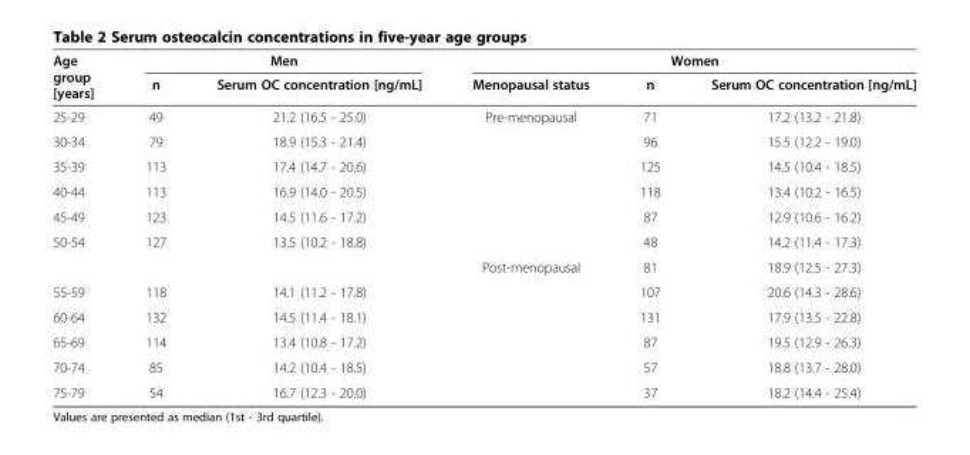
<table><thead><tr><td rowspan="2">Age group [years]</td><td colspan="2">Men</td><td colspan="3">Women</td></tr><tr><td>n</td><td>Serum OC concentration [ng/mL]</td><td>Menopausal status</td><td>n</td><td>Serum OC concentration [ng/mL]</td></tr></thead><tbody><tr><td>25-29</td><td>49</td><td>21.2 (16.5 - 25.0)</td><td>Pre-menopausal</td><td>71</td><td>17.2 (13.2 - 21.8)</td></tr><tr><td>30-34</td><td>79</td><td>18.9 (15.3 - 21.4)</td><td></td><td>96</td><td>15.5 (12.2 - 19.0)</td></tr><tr><td>35-39</td><td>113</td><td>17.4 (14.7 - 20.6)</td><td></td><td>125</td><td>14.5 (10.4 - 18.5)</td></tr><tr><td>40-44</td><td>113</td><td>16.9 (14.0 - 20.5)</td><td></td><td>118</td><td>13.4 (10.2 - 16.5)</td></tr><tr><td>45-49</td><td>123</td><td>14.5 (11.6 - 17.2)</td><td></td><td>87</td><td>12.9 (10.6 - 16.2)</td></tr><tr><td rowspan="2">50-54</td><td>127</td><td>13.5 (10.2 - 18.8)</td><td></td><td>48</td><td>14.2 (11.4 - 17.3)</td></tr><tr><td></td><td></td><td>Post-menopausal</td><td>81</td><td>18.9 (12.5 - 27.3)</td></tr><tr><td>55-59</td><td>118</td><td>14.1 (11.2 - 17.8)</td><td></td><td>107</td><td>20.6 (14.3 - 28.6)</td></tr><tr><td>60-64</td><td>132</td><td>14.5 (11.4 - 18.1)</td><td></td><td>131</td><td>17.9 (13.5 - 22.8)</td></tr><tr><td>65-69</td><td>114</td><td>13.4 (10.8 - 17.2)</td><td></td><td>87</td><td>19.5 (12.9 - 26.3)</td></tr><tr><td>70-74</td><td>85</td><td>14.2 (10.4 - 18.5)</td><td></td><td>57</td><td>18.8 (13.7 - 28.0)</td></tr><tr><td>75-79</td><td>54</td><td>16.7 (12.3 - 20.0)</td><td></td><td>37</td><td>18.2 (14.4 - 25.4)</td></tr></tbody></table>